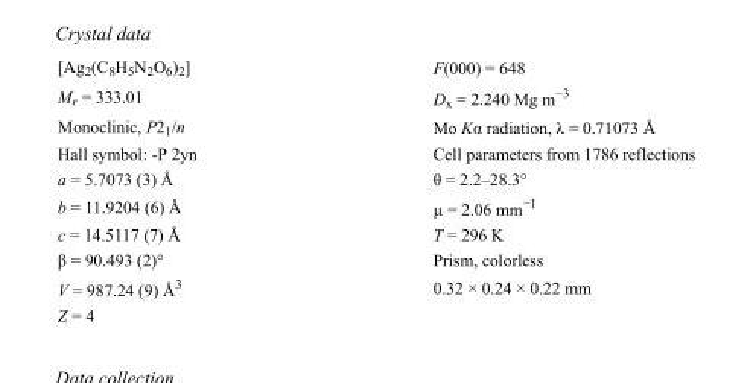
<table><tbody><tr><td>[Ag<sub>2</sub>(C<sub>8</sub>H<sub>5</sub>N<sub>2</sub>O<sub>6</sub>)<sub>2</sub>]</td><td>F(000) = 648</td></tr><tr><td>M<sub>r</sub> = 333.01</td><td>D<sub>x</sub> = 2.240 Mg m<sup>−3</sup></td></tr><tr><td>Monoclinic, P2<sub>1</sub>/n</td><td>Mo Kα radiation, λ = 0.71073 Å</td></tr><tr><td>Hall symbol: -P 2yn</td><td>Cell parameters from 1786 reflections</td></tr><tr><td>a = 5.7073 (3) Å</td><td>θ = 2.2–28.3°</td></tr><tr><td>b = 11.9204 (6) Å</td><td>µ = 2.06 mm<sup>−1</sup></td></tr><tr><td>c = 14.5117 (7) Å</td><td>T = 296 K</td></tr><tr><td>β = 90.493 (2)°</td><td>Prism, colorless</td></tr><tr><td>V = 987.24 (9) Å<sup>3</sup></td><td>0.32 × 0.24 × 0.22 mm</td></tr><tr><td>Z = 4</td><td></td></tr></tbody></table>